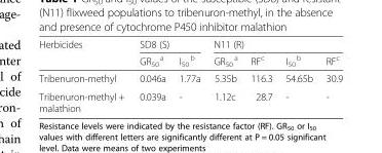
<table><thead><tr><td rowspan="2">Herbicides</td><td colspan="2">SD8 (S)</td><td colspan="4">N11 (R)</td></tr><tr><td>GR<sub>50</sub> <sup>a</sup></td><td>I<sub>50</sub> <sup>b</sup></td><td>GR<sub>50</sub> <sup>a</sup></td><td>RF<sup>c</sup></td><td>I<sub>50</sub> <sup>b</sup></td><td>RF<sup>c</sup></td></tr></thead><tbody><tr><td>Tribenuron-methyl</td><td>0.046a</td><td>1.77a</td><td>5.35b</td><td>116.3</td><td>54.65b</td><td>30.9</td></tr><tr><td>Tribenuron-methyl + malathion</td><td>0.039a</td><td>-</td><td>1.12c</td><td>28.7</td><td>-</td><td>-</td></tr></tbody></table>